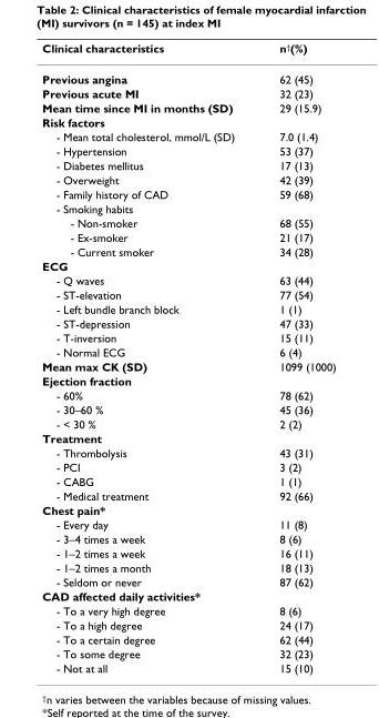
<table><thead><tr><td>Clinical characteristics</td><td>n<sup>†</sup>(%)</td></tr></thead><tbody><tr><td>Previous angina</td><td>62 (45)</td></tr><tr><td>Previous acute MI</td><td>32 (23)</td></tr><tr><td>Mean time since MI in months (SD)</td><td>29 (15.9)</td></tr><tr><td colspan="2">Risk factors</td></tr><tr><td>- Mean total cholesterol, mmol/L (SD)</td><td>7.0 (1.4)</td></tr><tr><td>- Hypertension</td><td>53 (37)</td></tr><tr><td>- Diabetes mellitus</td><td>17 (13)</td></tr><tr><td>- Overweight</td><td>42 (39)</td></tr><tr><td>- Family history of CAD</td><td>59 (68)</td></tr><tr><td colspan="2">- Smoking habits</td></tr><tr><td>- Non-smoker</td><td>68 (55)</td></tr><tr><td>- Ex-smoker</td><td>21 (17)</td></tr><tr><td>- Current smoker</td><td>34 (28)</td></tr><tr><td colspan="2">ECG</td></tr><tr><td>- Q waves</td><td>63 (44)</td></tr><tr><td>- ST-elevation</td><td>77 (54)</td></tr><tr><td>- Left bundle branch block</td><td>1 (1)</td></tr><tr><td>- ST-depression</td><td>47 (33)</td></tr><tr><td>- T-inversion</td><td>15 (11)</td></tr><tr><td>- Normal ECG</td><td>6 (4)</td></tr><tr><td>Mean max CK (SD)</td><td>1099 (1000)</td></tr><tr><td colspan="2">Ejection fraction</td></tr><tr><td>- 60%</td><td>78 (62)</td></tr><tr><td>- 30–60 %</td><td>45 (36)</td></tr><tr><td>- &lt; 30 %</td><td>2 (2)</td></tr><tr><td colspan="2">Treatment</td></tr><tr><td>- Thrombolysis</td><td>43 (31)</td></tr><tr><td>- PCI</td><td>3 (2)</td></tr><tr><td>- CABG</td><td>1 (1)</td></tr><tr><td>- Medical treatment</td><td>92 (66)</td></tr><tr><td colspan="2">Chest pain*</td></tr><tr><td>- Every day</td><td>11 (8)</td></tr><tr><td>- 3–4 times a week</td><td>8 (6)</td></tr><tr><td>- 1–2 times a week</td><td>16 (11)</td></tr><tr><td>- 1–2 times a month</td><td>18 (13)</td></tr><tr><td>- Seldom or never</td><td>87 (62)</td></tr><tr><td colspan="2">CAD affected daily activities*</td></tr><tr><td>- To a very high degree</td><td>8 (6)</td></tr><tr><td>- To a high degree</td><td>24 (17)</td></tr><tr><td>- To a certain degree</td><td>62 (44)</td></tr><tr><td>- To some degree</td><td>32 (23)</td></tr><tr><td>- Not at all</td><td>15 (10)</td></tr></tbody></table>